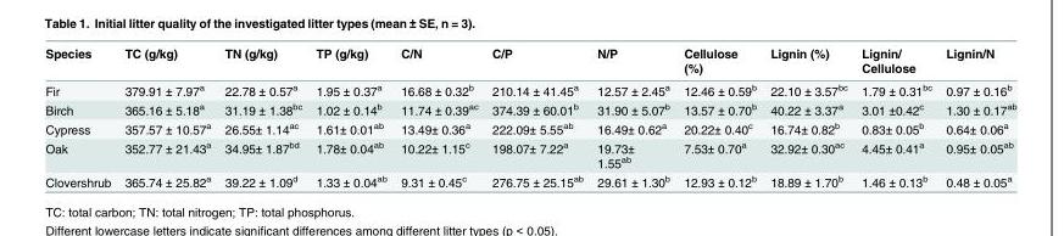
<table><thead><tr><td>Species</td><td>TC (g/kg)</td><td>TN (g/kg)</td><td>TP (g/kg)</td><td>C/N</td><td>C/P</td><td>N/P</td><td>Cellulose (%)</td><td>Lignin (%)</td><td>Lignin/ Cellulose</td><td>Lignin/N</td></tr></thead><tbody><tr><td>Fir</td><td>379.91 ± 7.97<sup>a</sup></td><td>22.78 ± 0.57<sup>a</sup></td><td>1.95 ± 0.37<sup>a</sup></td><td>16.68 ± 0.32<sup>b</sup></td><td>210.14 ± 41.45<sup>a</sup></td><td>12.57 ± 2.45<sup>a</sup></td><td>12.46 ± 0.59<sup>b</sup></td><td>22.10 ± 3.57<sup>bc</sup></td><td>1.79 ± 0.31<sup>bc</sup></td><td>0.97 ± 0.16<sup>b</sup></td></tr><tr><td>Birch</td><td>365.16 ± 5.18<sup>a</sup></td><td>31.19 ± 1.38<sup>bc</sup></td><td>1.02 ± 0.14<sup>b</sup></td><td>11.74 ± 0.39<sup>ac</sup></td><td>374.39 ± 60.01<sup>b</sup></td><td>31.90 ± 5.07<sup>b</sup></td><td>13.57 ± 0.70<sup>b</sup></td><td>40.22 ± 3.37<sup>a</sup></td><td>3.01 ±0.42<sup>c</sup></td><td>1.30 ± 0.17<sup>ab</sup></td></tr><tr><td>Cypress</td><td>357.57 ± 10.57<sup>a</sup></td><td>26.55± 1.14<sup>ac</sup></td><td>1.61± 0.01<sup>ab</sup></td><td>13.49± 0.36<sup>a</sup></td><td>222.09± 5.55<sup>ab</sup></td><td>16.49± 0.62<sup>a</sup></td><td>20.22± 0.40<sup>c</sup></td><td>16.74± 0.82<sup>b</sup></td><td>0.83± 0.05<sup>b</sup></td><td>0.64± 0.06<sup>a</sup></td></tr><tr><td>Oak</td><td>352.77 ± 21.43<sup>a</sup></td><td>34.95± 1.87<sup>bd</sup></td><td>1.78± 0.04<sup>ab</sup></td><td>10.22± 1.15<sup>c</sup></td><td>198.07± 7.22<sup>a</sup></td><td>19.73± 1.55<sup>ab</sup></td><td>7.53± 0.70<sup>a</sup></td><td>32.92± 0.30<sup>ac</sup></td><td>4.45± 0.41<sup>a</sup></td><td>0.95± 0.05<sup>ab</sup></td></tr><tr><td>Clovershrub</td><td>365.74 ± 25.82<sup>a</sup></td><td>39.22 ± 1.09<sup>d</sup></td><td>1.33 ± 0.04<sup>ab</sup></td><td>9.31 ± 0.45<sup>c</sup></td><td>276.75 ± 25.15<sup>ab</sup></td><td>29.61 ± 1.30<sup>b</sup></td><td>12.93 ± 0.12<sup>b</sup></td><td>18.89 ± 1.70<sup>b</sup></td><td>1.46 ± 0.13<sup>b</sup></td><td>0.48 ± 0.05<sup>a</sup></td></tr></tbody></table>